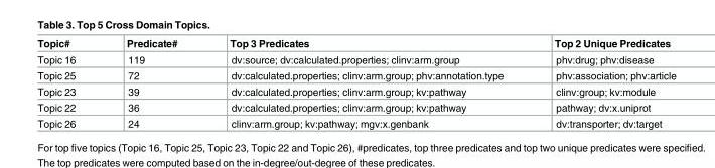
<table><thead><tr><td>Topic#</td><td>Predicate#</td><td>Top 3 Predicates</td><td>Top 2 Unique Predicates</td></tr></thead><tbody><tr><td>Topic 16</td><td>119</td><td>dv:source; dv:calculated.properties; clinv:arm.group</td><td>phv:drug; phv:disease</td></tr><tr><td>Topic 25</td><td>72</td><td>dv:calculated.properties; clinv:arm.group; phv:annotation.type</td><td>phv:association; phv:article</td></tr><tr><td>Topic 23</td><td>39</td><td>dv:calculated.properties; clinv:arm.group; kv:pathway</td><td>clinv:group; kv:module</td></tr><tr><td>Topic 22</td><td>36</td><td>dv:calculated.properties; clinv:arm.group; kv:pathway</td><td>pathway; dv:x.uniprot</td></tr><tr><td>Topic 26</td><td>24</td><td>clinv:arm.group; kv:pathway; mgv:x.genbank</td><td>dv:transporter; dv:target</td></tr></tbody></table>